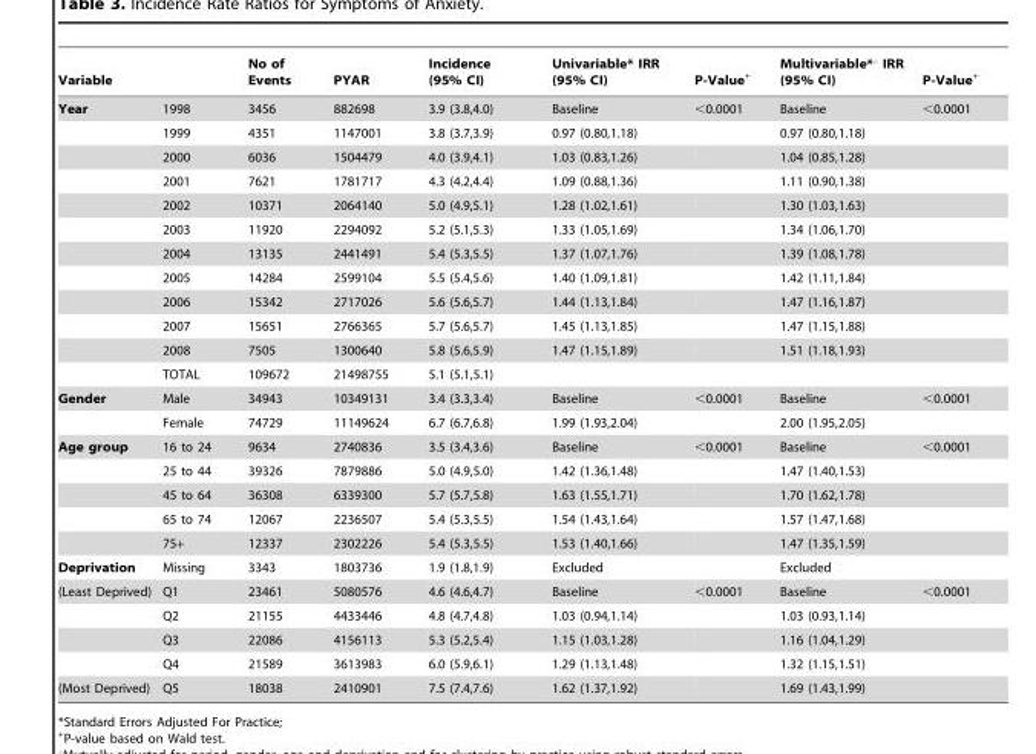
<table><thead><tr><td>Variable</td><td></td><td>No of Events</td><td>PYAR</td><td>Incidence (95% CI)</td><td>Univariable* IRR (95% CI)</td><td>P-Value+</td><td>Multivariable*‘ IRR (95% CI)</td><td>P-Value+</td></tr></thead><tbody><tr><td rowspan="12">Year</td><td>1998</td><td>3456</td><td>882698</td><td>3.9 (3.8,4.0)</td><td>Baseline</td><td>&lt;0.0001</td><td>Baseline</td><td>&lt;0.0001</td></tr><tr><td>1999</td><td>4351</td><td>1147001</td><td>3.8 (3.7,3.9)</td><td>0.97 (0.80,1.18)</td><td></td><td>0.97 (0.80,1.18)</td><td></td></tr><tr><td>2000</td><td>6036</td><td>1504479</td><td>4.0 (3.9,4.1)</td><td>1.03 (0.83,1.26)</td><td></td><td>1.04 (0.85,1.28)</td><td></td></tr><tr><td>2001</td><td>7621</td><td>1781717</td><td>4.3 (4.2,4.4)</td><td>1.09 (0.88,1.36)</td><td></td><td>1.11 (0.90,1.38)</td><td></td></tr><tr><td>2002</td><td>10371</td><td>2064140</td><td>5.0 (4.9,5.1)</td><td>1.28 (1.02,1.61)</td><td></td><td>1.30 (1.03,1.63)</td><td></td></tr><tr><td>2003</td><td>11920</td><td>2294092</td><td>5.2 (5.1,5.3)</td><td>1.33 (1.05,1.69)</td><td></td><td>1.34 (1.06,1.70)</td><td></td></tr><tr><td>2004</td><td>13135</td><td>2441491</td><td>5.4 (5.3,5.5)</td><td>1.37 (1.07,1.76)</td><td></td><td>1.39 (1.08,1.78)</td><td></td></tr><tr><td>2005</td><td>14284</td><td>2599104</td><td>5.5 (5.4,5.6)</td><td>1.40 (1.09,1.81)</td><td></td><td>1.42 (1.11,1.84)</td><td></td></tr><tr><td>2006</td><td>15342</td><td>2717026</td><td>5.6 (5.6,5.7)</td><td>1.44 (1.13,1.84)</td><td></td><td>1.47 (1.16,1.87)</td><td></td></tr><tr><td>2007</td><td>15651</td><td>2766365</td><td>5.7 (5.6,5.7)</td><td>1.45 (1.13,1.85)</td><td></td><td>1.47 (1.15,1.88)</td><td></td></tr><tr><td>2008</td><td>7505</td><td>1300640</td><td>5.8 (5.6,5.9)</td><td>1.47 (1.15,1.89)</td><td></td><td>1.51 (1.18,1.93)</td><td></td></tr><tr><td>TOTAL</td><td>109672</td><td>21498755</td><td>5.1 (5.1,5.1)</td><td></td><td></td><td></td><td></td></tr><tr><td rowspan="2">Gender</td><td>Male</td><td>34943</td><td>10349131</td><td>3.4 (3.3,3.4)</td><td>Baseline</td><td>&lt;0.0001</td><td>Baseline</td><td>&lt;0.0001</td></tr><tr><td>Female</td><td>74729</td><td>11149624</td><td>6.7 (6.7,6.8)</td><td>1.99 (1.93,2.04)</td><td></td><td>2.00 (1.95,2.05)</td><td></td></tr><tr><td rowspan="5">Age group</td><td>16 to 24</td><td>9634</td><td>2740836</td><td>3.5 (3.4,3.6)</td><td>Baseline</td><td>&lt;0.0001</td><td>Baseline</td><td>&lt;0.0001</td></tr><tr><td>25 to 44</td><td>39326</td><td>7879886</td><td>5.0 (4.9,5.0)</td><td>1.42 (1.36,1.48)</td><td></td><td>1.47 (1.40,1.53)</td><td></td></tr><tr><td>45 to 64</td><td>36308</td><td>6339300</td><td>5.7 (5.7,5.8)</td><td>1.63 (1.55,1.71)</td><td></td><td>1.70 (1.62,1.78)</td><td></td></tr><tr><td>65 to 74</td><td>12067</td><td>2236507</td><td>5.4 (5.3,5.5)</td><td>1.54 (1.43,1.64)</td><td></td><td>1.57 (1.47,1.68)</td><td></td></tr><tr><td>75+</td><td>12337</td><td>2302226</td><td>5.4 (5.3,5.5)</td><td>1.53 (1.40,1.66)</td><td></td><td>1.47 (1.35,1.59)</td><td></td></tr><tr><td>Deprivation</td><td>Missing</td><td>3343</td><td>1803736</td><td>1.9 (1.8,1.9)</td><td>Excluded</td><td></td><td>Excluded</td><td></td></tr><tr><td rowspan="4">(Least Deprived)</td><td>Q1</td><td>23461</td><td>5080576</td><td>4.6 (4.6,4.7)</td><td>Baseline</td><td>&lt;0.0001</td><td>Baseline</td><td>&lt;0.0001</td></tr><tr><td>Q2</td><td>21155</td><td>4433446</td><td>4.8 (4.7,4.8)</td><td>1.03 (0.94,1.14)</td><td></td><td>1.03 (0.93,1.14)</td><td></td></tr><tr><td>Q3</td><td>22086</td><td>4156113</td><td>5.3 (5.2,5.4)</td><td>1.15 (1.03,1.28)</td><td></td><td>1.16 (1.04,1.29)</td><td></td></tr><tr><td>Q4</td><td>21589</td><td>3613983</td><td>6.0 (5.9,6.1)</td><td>1.29 (1.13,1.48)</td><td></td><td>1.32 (1.15,1.51)</td><td></td></tr><tr><td>(Most Deprived)</td><td>Q5</td><td>18038</td><td>2410901</td><td>7.5 (7.4,7.6)</td><td>1.62 (1.37,1.92)</td><td></td><td>1.69 (1.43,1.99)</td><td></td></tr></tbody></table>